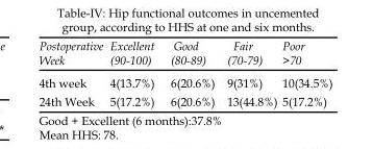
<table><thead><tr><td>Postoperative Week</td><td>Excellent (90-100)</td><td>Good (80-89)</td><td>Fair (70-79)</td><td>Poor &gt;70</td></tr></thead><tbody><tr><td>4th week</td><td>4(13.7%)</td><td>6(20.6%)</td><td>9(31%)</td><td>10(34.5%)</td></tr><tr><td>24th Week</td><td>5(17.2%)</td><td>6(20.6%)</td><td>13(44.8%)</td><td>5(17.2%)</td></tr></tbody></table>